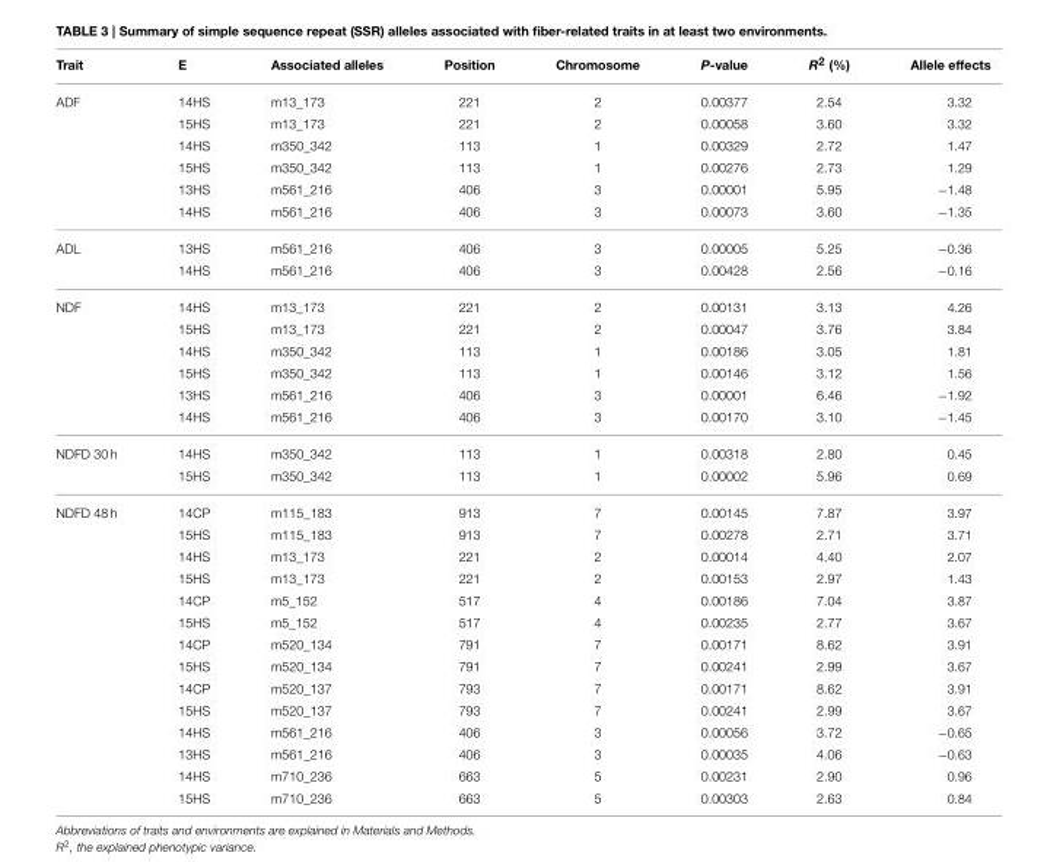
<table><thead><tr><td>Trait</td><td>E</td><td>Associated alleles</td><td>Position</td><td>Chromosome</td><td>P-value</td><td>R<sup>2</sup> (%)</td><td>Allele effects</td></tr></thead><tbody><tr><td rowspan="6">ADF</td><td>14HS</td><td>m13_173</td><td>221</td><td>2</td><td>0.00377</td><td>2.54</td><td>3.32</td></tr><tr><td>15HS</td><td>m13_173</td><td>221</td><td>2</td><td>0.00058</td><td>3.60</td><td>3.32</td></tr><tr><td>14HS</td><td>m350_342</td><td>113</td><td>1</td><td>0.00329</td><td>2.72</td><td>1.47</td></tr><tr><td>15HS</td><td>m350_342</td><td>113</td><td>1</td><td>0.00276</td><td>2.73</td><td>1.29</td></tr><tr><td>13HS</td><td>m561_216</td><td>406</td><td>3</td><td>0.00001</td><td>5.95</td><td>−1.48</td></tr><tr><td>14HS</td><td>m561_216</td><td>406</td><td>3</td><td>0.00073</td><td>3.60</td><td>−1.35</td></tr><tr><td rowspan="2">ADL</td><td>13HS</td><td>m561_216</td><td>406</td><td>3</td><td>0.00005</td><td>5.25</td><td>−0.36</td></tr><tr><td>14HS</td><td>m561_216</td><td>406</td><td>3</td><td>0.00428</td><td>2.56</td><td>−0.16</td></tr><tr><td rowspan="6">NDF</td><td>14HS</td><td>m13_173</td><td>221</td><td>2</td><td>0.00131</td><td>3.13</td><td>4.26</td></tr><tr><td>15HS</td><td>m13_173</td><td>221</td><td>2</td><td>0.00047</td><td>3.76</td><td>3.84</td></tr><tr><td>14HS</td><td>m350_342</td><td>113</td><td>1</td><td>0.00186</td><td>3.05</td><td>1.81</td></tr><tr><td>15HS</td><td>m350_342</td><td>113</td><td>1</td><td>0.00146</td><td>3.12</td><td>1.56</td></tr><tr><td>13HS</td><td>m561_216</td><td>406</td><td>3</td><td>0.00001</td><td>6.46</td><td>−1.92</td></tr><tr><td>14HS</td><td>m561_216</td><td>406</td><td>3</td><td>0.00170</td><td>3.10</td><td>−1.45</td></tr><tr><td rowspan="2">NDFD 30 h</td><td>14HS</td><td>m350_342</td><td>113</td><td>1</td><td>0.00318</td><td>2.80</td><td>0.45</td></tr><tr><td>15HS</td><td>m350_342</td><td>113</td><td>1</td><td>0.00002</td><td>5.96</td><td>0.69</td></tr><tr><td rowspan="14">NDFD 48 h</td><td>14CP</td><td>m115_183</td><td>913</td><td>7</td><td>0.00145</td><td>7.87</td><td>3.97</td></tr><tr><td>15HS</td><td>m115_183</td><td>913</td><td>7</td><td>0.00278</td><td>2.71</td><td>3.71</td></tr><tr><td>14HS</td><td>m13_173</td><td>221</td><td>2</td><td>0.00014</td><td>4.40</td><td>2.07</td></tr><tr><td>15HS</td><td>m13_173</td><td>221</td><td>2</td><td>0.00153</td><td>2.97</td><td>1.43</td></tr><tr><td>14CP</td><td>m5_152</td><td>517</td><td>4</td><td>0.00186</td><td>7.04</td><td>3.87</td></tr><tr><td>15HS</td><td>m5_152</td><td>517</td><td>4</td><td>0.00235</td><td>2.77</td><td>3.67</td></tr><tr><td>14CP</td><td>m520_134</td><td>791</td><td>7</td><td>0.00171</td><td>8.62</td><td>3.91</td></tr><tr><td>15HS</td><td>m520_134</td><td>791</td><td>7</td><td>0.00241</td><td>2.99</td><td>3.67</td></tr><tr><td>14CP</td><td>m520_137</td><td>793</td><td>7</td><td>0.00171</td><td>8.62</td><td>3.91</td></tr><tr><td>15HS</td><td>m520_137</td><td>793</td><td>7</td><td>0.00241</td><td>2.99</td><td>3.67</td></tr><tr><td>14HS</td><td>m561_216</td><td>406</td><td>3</td><td>0.00056</td><td>3.72</td><td>−0.65</td></tr><tr><td>13HS</td><td>m561_216</td><td>406</td><td>3</td><td>0.00035</td><td>4.06</td><td>−0.63</td></tr><tr><td>14HS</td><td>m710_236</td><td>663</td><td>5</td><td>0.00231</td><td>2.90</td><td>0.96</td></tr><tr><td>15HS</td><td>m710_236</td><td>663</td><td>5</td><td>0.00303</td><td>2.63</td><td>0.84</td></tr></tbody></table>